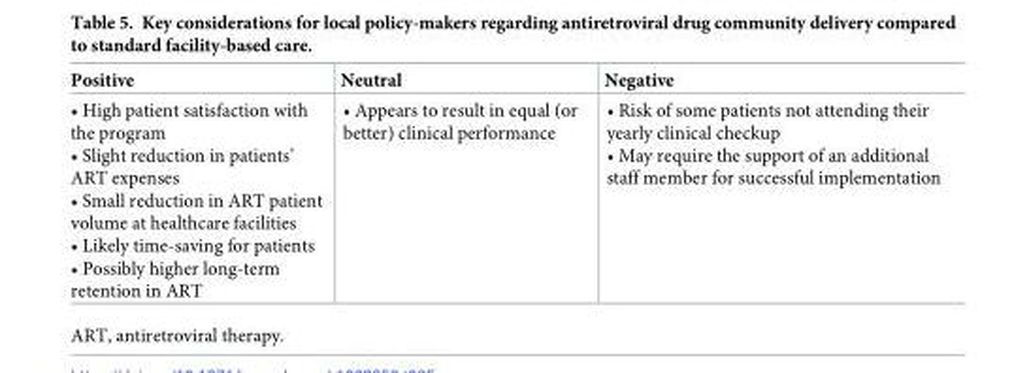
<table><thead><tr><td>Positive</td><td>Neutral</td><td>Negative</td></tr></thead><tbody><tr><td>• High patient satisfaction with the program • Slight reduction in patients’ ART expenses • Small reduction in ART patient volume at healthcare facilities • Likely time-saving for patients • Possibly higher long-term retention in ART</td><td>• Appears to result in equal (or better) clinical performance</td><td>• Risk of some patients not attending their yearly clinical checkup • May require the support of an additional staff member for successful implementation</td></tr></tbody></table>